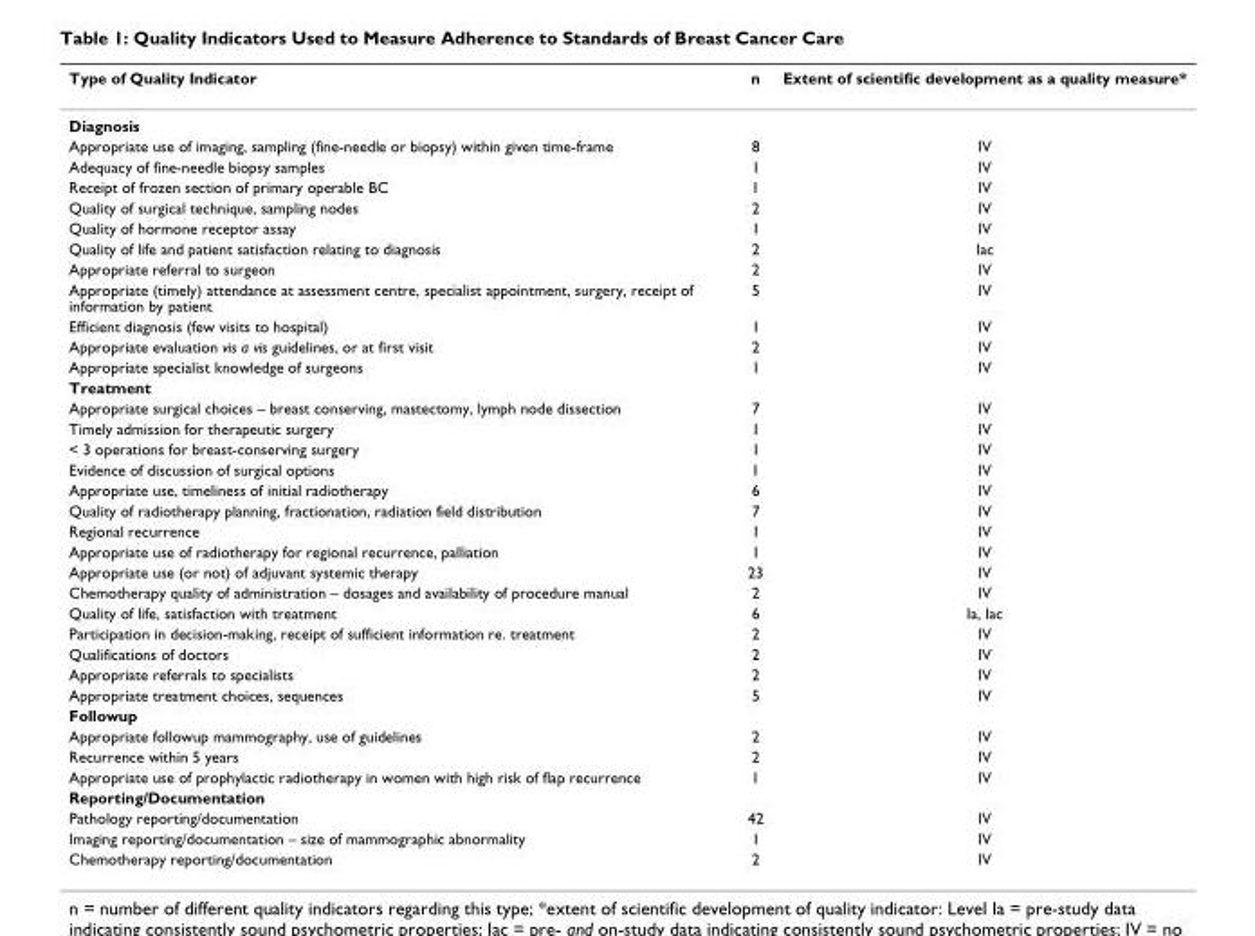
<table><thead><tr><td>Type of Quality Indicator</td><td>n</td><td>Extent of scientific development as a quality measure*</td></tr></thead><tbody><tr><td colspan="3">Diagnosis</td></tr><tr><td>Appropriate use of imaging, sampling (fine-needle or biopsy) within given time-frame</td><td>8</td><td>IV</td></tr><tr><td>Adequacy of fine-needle biopsy samples</td><td>1</td><td>IV</td></tr><tr><td>Receipt of frozen section of primary operable BC</td><td>1</td><td>IV</td></tr><tr><td>Quality of surgical technique, sampling nodes</td><td>2</td><td>IV</td></tr><tr><td>Quality of hormone receptor assay</td><td>1</td><td>IV</td></tr><tr><td>Quality of life and patient satisfaction relating to diagnosis</td><td>2</td><td>Iac</td></tr><tr><td>Appropriate referral to surgeon</td><td>2</td><td>IV</td></tr><tr><td>Appropriate (timely) attendance at assessment centre, specialist appointment, surgery, receipt of information by patient</td><td>5</td><td>IV</td></tr><tr><td>Efficient diagnosis (few visits to hospital)</td><td>1</td><td>IV</td></tr><tr><td>Appropriate evaluation vis a vis guidelines, or at first visit</td><td>2</td><td>IV</td></tr><tr><td>Appropriate specialist knowledge of surgeons</td><td>1</td><td>IV</td></tr><tr><td colspan="3">Treatment</td></tr><tr><td>Appropriate surgical choices – breast conserving, mastectomy, lymph node dissection</td><td>7</td><td>IV</td></tr><tr><td>Timely admission for therapeutic surgery</td><td>1</td><td>IV</td></tr><tr><td>&lt; 3 operations for breast-conserving surgery</td><td>1</td><td>IV</td></tr><tr><td>Evidence of discussion of surgical options</td><td>1</td><td>IV</td></tr><tr><td>Appropriate use, timeliness of initial radiotherapy</td><td>6</td><td>IV</td></tr><tr><td>Quality of radiotherapy planning, fractionation, radiation field distribution</td><td>7</td><td>IV</td></tr><tr><td>Regional recurrence</td><td>1</td><td>IV</td></tr><tr><td>Appropriate use of radiotherapy for regional recurrence, palliation</td><td>1</td><td>IV</td></tr><tr><td>Appropriate use (or not) of adjuvant systemic therapy</td><td>23</td><td>IV</td></tr><tr><td>Chemotherapy quality of administration – dosages and availability of procedure manual</td><td>2</td><td>IV</td></tr><tr><td>Quality of life, satisfaction with treatment</td><td>6</td><td>Ia, Iac</td></tr><tr><td>Participation in decision-making, receipt of sufficient information re. treatment</td><td>2</td><td>IV</td></tr><tr><td>Qualifications of doctors</td><td>2</td><td>IV</td></tr><tr><td>Appropriate referrals to specialists</td><td>2</td><td>IV</td></tr><tr><td>Appropriate treatment choices, sequences</td><td>5</td><td>IV</td></tr><tr><td colspan="3">Followup</td></tr><tr><td>Appropriate followup mammography, use of guidelines</td><td>2</td><td>IV</td></tr><tr><td>Recurrence within 5 years</td><td>2</td><td>IV</td></tr><tr><td>Appropriate use of prophylactic radiotherapy in women with high risk of flap recurrence</td><td>1</td><td>IV</td></tr><tr><td colspan="3">Reporting/Documentation</td></tr><tr><td>Pathology reporting/documentation</td><td>42</td><td>IV</td></tr><tr><td>Imaging reporting/documentation – size of mammographic abnormality</td><td>1</td><td>IV</td></tr><tr><td>Chemotherapy reporting/documentation</td><td>2</td><td>IV</td></tr></tbody></table>